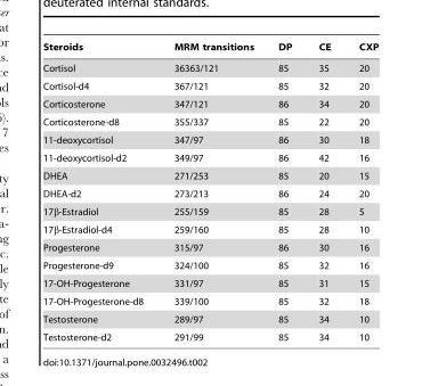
<table><thead><tr><td>Steroids</td><td>MRM transitions</td><td>DP</td><td>CE</td><td>CXP</td></tr></thead><tbody><tr><td>Cortisol</td><td>36363/121</td><td>85</td><td>35</td><td>20</td></tr><tr><td>Cortisol-d4</td><td>367/121</td><td>85</td><td>32</td><td>20</td></tr><tr><td>Corticosterone</td><td>347/121</td><td>86</td><td>34</td><td>20</td></tr><tr><td>Corticosterone-d8</td><td>355/337</td><td>85</td><td>22</td><td>20</td></tr><tr><td>11-deoxycortisol</td><td>347/97</td><td>86</td><td>30</td><td>18</td></tr><tr><td>11-deoxycortisol-d2</td><td>349/97</td><td>86</td><td>42</td><td>16</td></tr><tr><td>DHEA</td><td>271/253</td><td>85</td><td>20</td><td>15</td></tr><tr><td>DHEA-d2</td><td>273/213</td><td>86</td><td>24</td><td>20</td></tr><tr><td>17β-Estradiol</td><td>255/159</td><td>85</td><td>28</td><td>5</td></tr><tr><td>17β-Estradiol-d4</td><td>259/160</td><td>85</td><td>28</td><td>10</td></tr><tr><td>Progesterone</td><td>315/97</td><td>86</td><td>30</td><td>16</td></tr><tr><td>Progesterone-d9</td><td>324/100</td><td>85</td><td>32</td><td>16</td></tr><tr><td>17-OH-Progesterone</td><td>331/97</td><td>85</td><td>31</td><td>15</td></tr><tr><td>17-OH-Progesterone-d8</td><td>339/100</td><td>85</td><td>32</td><td>18</td></tr><tr><td>Testosterone</td><td>289/97</td><td>85</td><td>34</td><td>10</td></tr><tr><td>Testosterone-d2</td><td>291/99</td><td>85</td><td>34</td><td>10</td></tr></tbody></table>